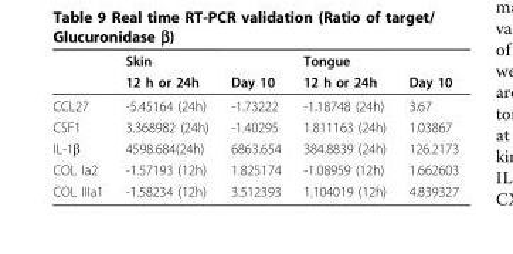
<table><thead><tr><td rowspan="2"></td><td rowspan="2">Skin 12 h or 24h</td><td rowspan="2">Day 10</td><td rowspan="2">Tongue 12 h or 24h</td><td rowspan="2">Day 10</td></tr><tr></tr></thead><tbody><tr><td>CCL27</td><td>-5.45164 (24h)</td><td>-1.73222</td><td>-1.18748 (24h)</td><td>3.67</td></tr><tr><td>CSF1</td><td>3.368982 (24h)</td><td>-1.40295</td><td>1.811163 (24h)</td><td>1.03867</td></tr><tr><td>IL-1β</td><td>4598.684(24h)</td><td>6863.654</td><td>384.8839 (24h)</td><td>126.2173</td></tr><tr><td>COL Ia2</td><td>-1.57193 (12h)</td><td>1.825174</td><td>-1.08959 (12h)</td><td>1.662603</td></tr><tr><td>COL IIIa1</td><td>-1.58234 (12h)</td><td>3.512393</td><td>1.104019 (12h)</td><td>4.839327</td></tr></tbody></table>